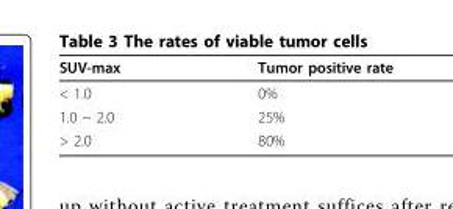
<table><thead><tr><td>SUV-max</td><td>Tumor positive rate</td></tr></thead><tbody><tr><td>&lt; 1.0</td><td>0%</td></tr><tr><td>1.0 ~ 2.0</td><td>25%</td></tr><tr><td>&gt; 2.0</td><td>80%</td></tr></tbody></table>